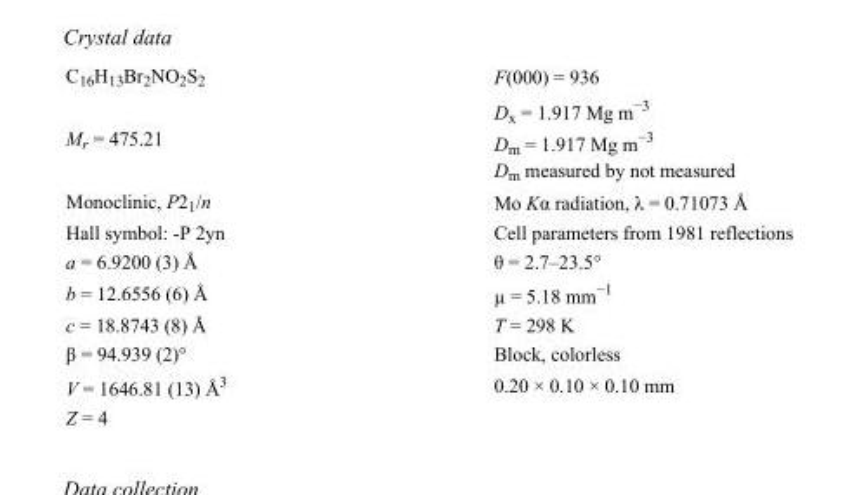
<table><tbody><tr><td>C<sub>16</sub>H<sub>13</sub>Br<sub>2</sub>NO<sub>2</sub>S<sub>2</sub></td><td>F(000) = 936</td></tr><tr><td>M<sub>r</sub> = 475.21</td><td>D<sub>x</sub> = 1.917 Mg m<sup>−3</sup> D<sub>m</sub> = 1.917 Mg m<sup>−3</sup> D<sub>m</sub> measured by not measured</td></tr><tr><td>Monoclinic, P2<sub>1</sub>/n</td><td>Mo Kα radiation, λ = 0.71073 Å</td></tr><tr><td>Hall symbol: -P 2yn</td><td>Cell parameters from 1981 reflections</td></tr><tr><td>a = 6.9200 (3) Å</td><td>θ = 2.7–23.5°</td></tr><tr><td>b = 12.6556 (6) Å</td><td>µ = 5.18 mm<sup>−1</sup></td></tr><tr><td>c = 18.8743 (8) Å</td><td>T = 298 K</td></tr><tr><td>β = 94.939 (2)°</td><td>Block, colorless</td></tr><tr><td>V = 1646.81 (13) Å<sup>3</sup></td><td>0.20 × 0.10 × 0.10 mm</td></tr><tr><td>Z = 4</td><td></td></tr></tbody></table>